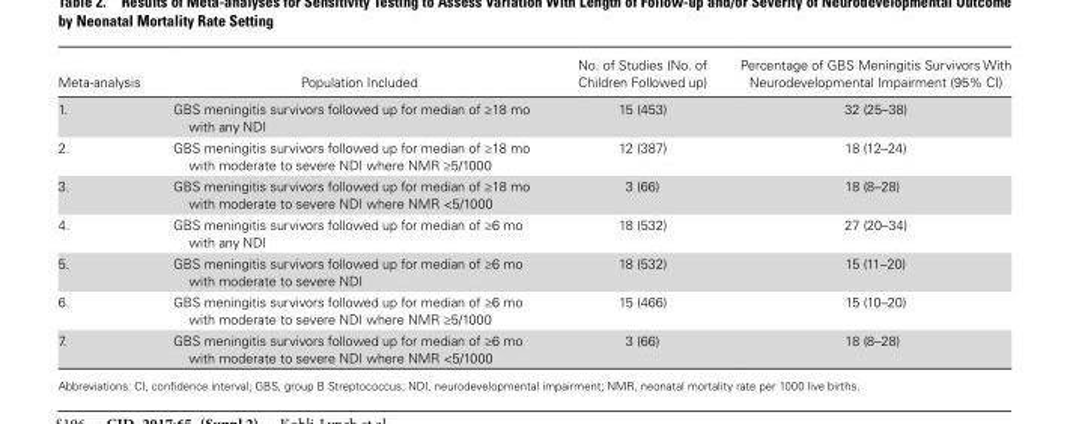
<table><thead><tr><td>Meta-analysis</td><td>Population Included</td><td>No. of Studies (No. of Children Followed up)</td><td>Percentage of GBS Meningitis Survivors With Neurodevelopmental Impairment (95% CI)</td></tr></thead><tbody><tr><td>1.</td><td>GBS meningitis survivors followed up for median of ≥18 mo with any NDI</td><td>15 (453)</td><td>32 (25–38)</td></tr><tr><td>2.</td><td>GBS meningitis survivors followed up for median of ≥18 mo with moderate to severe NDI where NMR ≥5/1000</td><td>12 (387)</td><td>18 (12–24)</td></tr><tr><td>3.</td><td>GBS meningitis survivors followed up for median of ≥18 mo with moderate to severe NDI where NMR &lt;5/1000</td><td>3 (66)</td><td>18 (8–28)</td></tr><tr><td>4.</td><td>GBS meningitis survivors followed up for median of ≥6 mo with any NDI</td><td>18 (532)</td><td>27 (20–34)</td></tr><tr><td>5.</td><td>GBS meningitis survivors followed up for median of ≥6 mo with moderate to severe NDI</td><td>18 (532)</td><td>15 (11–20)</td></tr><tr><td>6.</td><td>GBS meningitis survivors followed up for median of ≥6 mo with moderate to severe NDI where NMR ≥5/1000</td><td>15 (466)</td><td>15 (10–20)</td></tr><tr><td>7.</td><td>GBS meningitis survivors followed up for median of ≥6 mo with moderate to severe NDI where NMR &lt;5/1000</td><td>3 (66)</td><td>18 (8–28)</td></tr></tbody></table>